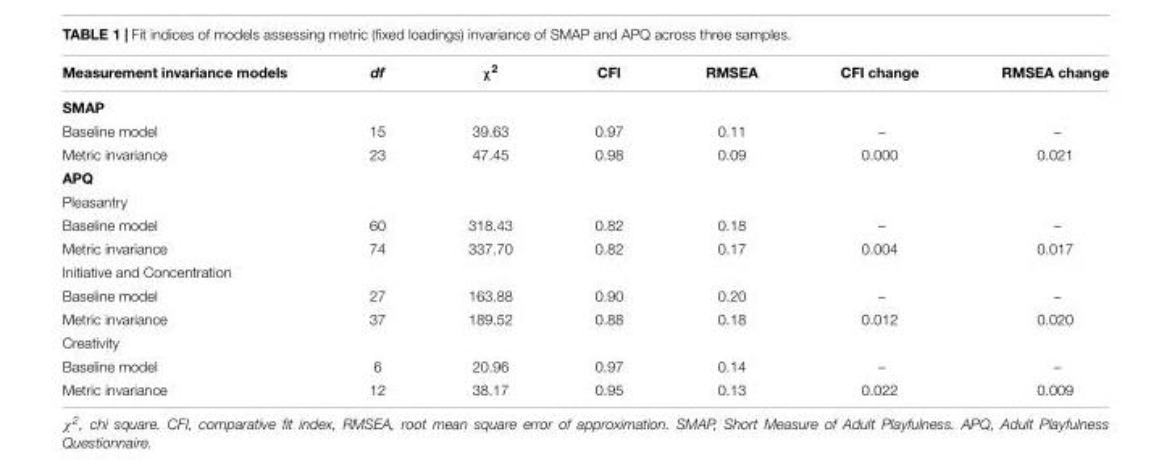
<table><thead><tr><td>Measurement invariance models</td><td>df</td><td>χ<sup>2</sup></td><td>CFI</td><td>RMSEA</td><td>CFI change</td><td>RMSEA change</td></tr></thead><tbody><tr><td colspan="7">SMAP</td></tr><tr><td>Baseline model</td><td>15</td><td>39.63</td><td>0.97</td><td>0.11</td><td>–</td><td>–</td></tr><tr><td>Metric invariance</td><td>23</td><td>47.45</td><td>0.98</td><td>0.09</td><td>0.000</td><td>0.021</td></tr><tr><td colspan="7">APQ</td></tr><tr><td colspan="7">Pleasantry</td></tr><tr><td>Baseline model</td><td>60</td><td>318.43</td><td>0.82</td><td>0.18</td><td>–</td><td>–</td></tr><tr><td>Metric invariance</td><td>74</td><td>337.70</td><td>0.82</td><td>0.17</td><td>0.004</td><td>0.017</td></tr><tr><td colspan="7">Initiative and Concentration</td></tr><tr><td>Baseline model</td><td>27</td><td>163.88</td><td>0.90</td><td>0.20</td><td>–</td><td>–</td></tr><tr><td>Metric invariance</td><td>37</td><td>189.52</td><td>0.88</td><td>0.18</td><td>0.012</td><td>0.020</td></tr><tr><td colspan="7">Creativity</td></tr><tr><td>Baseline model</td><td>6</td><td>20.96</td><td>0.97</td><td>0.14</td><td>–</td><td>–</td></tr><tr><td>Metric invariance</td><td>12</td><td>38.17</td><td>0.95</td><td>0.13</td><td>0.022</td><td>0.009</td></tr></tbody></table>